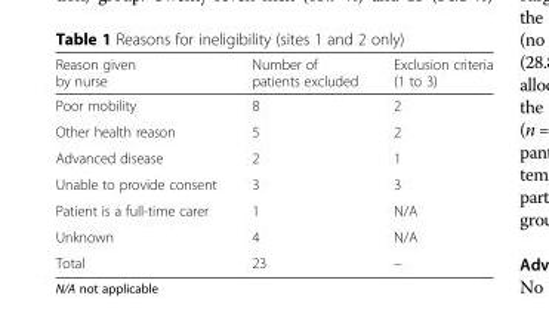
<table><thead><tr><td>Reason given by nurse</td><td>Number of patients excluded</td><td>Exclusion criteria (1 to 3)</td></tr></thead><tbody><tr><td>Poor mobility</td><td>8</td><td>2</td></tr><tr><td>Other health reason</td><td>5</td><td>2</td></tr><tr><td>Advanced disease</td><td>2</td><td>1</td></tr><tr><td>Unable to provide consent</td><td>3</td><td>3</td></tr><tr><td>Patient is a full-time carer</td><td>1</td><td>N/A</td></tr><tr><td>Unknown</td><td>4</td><td>N/A</td></tr><tr><td>Total</td><td>23</td><td>–</td></tr></tbody></table>